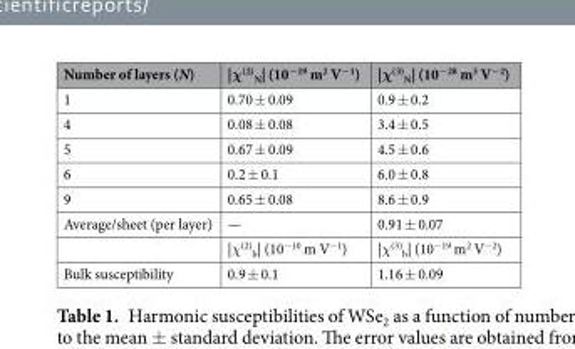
<table><thead><tr><td>Number of layers (N)</td><td>|χ<sup>(2)</sup> <sub>N</sub>| (10<sup>−19</sup> m<sup>2</sup> V<sup>−1</sup>)</td><td>|χ<sup>(3)</sup> <sub>N</sub>| (10<sup>−28</sup> m<sup>3</sup> V<sup>−2</sup>)</td></tr></thead><tbody><tr><td>1</td><td>0.70 ± 0.09</td><td>0.9 ± 0.2</td></tr><tr><td>4</td><td>0.08 ± 0.08</td><td>3.4 ± 0.5</td></tr><tr><td>5</td><td>0.67 ± 0.09</td><td>4.5 ± 0.6</td></tr><tr><td>6</td><td>0.2 ± 0.1</td><td>6.0 ± 0.8</td></tr><tr><td>9</td><td>0.65 ± 0.08</td><td>8.6 ± 0.9</td></tr><tr><td rowspan="2">Average/sheet (per layer)</td><td>—</td><td>0.91 ± 0.07</td></tr><tr><td>|χ<sup>(2)</sup> <sub>b</sub>| (10<sup>−10</sup> m V<sup>−1</sup>)</td><td>|χ<sup>(3)</sup> <sub>b</sub>| (10<sup>−19</sup> m<sup>2</sup> V<sup>−2</sup>)</td></tr><tr><td>Bulk susceptibility</td><td>0.9 ± 0.1</td><td>1.16 ± 0.09</td></tr></tbody></table>